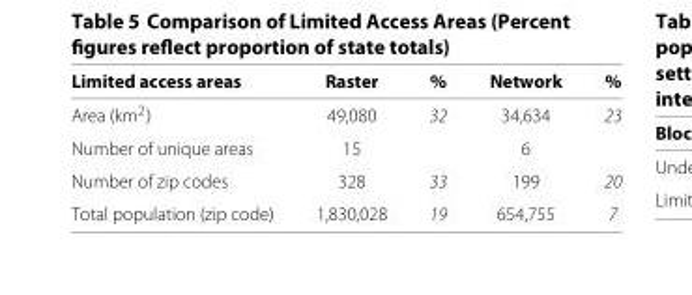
<table><thead><tr><td>Limited access areas</td><td>Raster</td><td>%</td><td>Network</td><td>%</td></tr></thead><tbody><tr><td>Area (km<sup>2</sup>)</td><td>49,080</td><td>32</td><td>34,634</td><td>23</td></tr><tr><td>Number of unique areas</td><td>15</td><td></td><td>6</td><td></td></tr><tr><td>Number of zip codes</td><td>328</td><td>33</td><td>199</td><td>20</td></tr><tr><td>Total population (zip code)</td><td>1,830,028</td><td>19</td><td>654,755</td><td>7</td></tr></tbody></table>